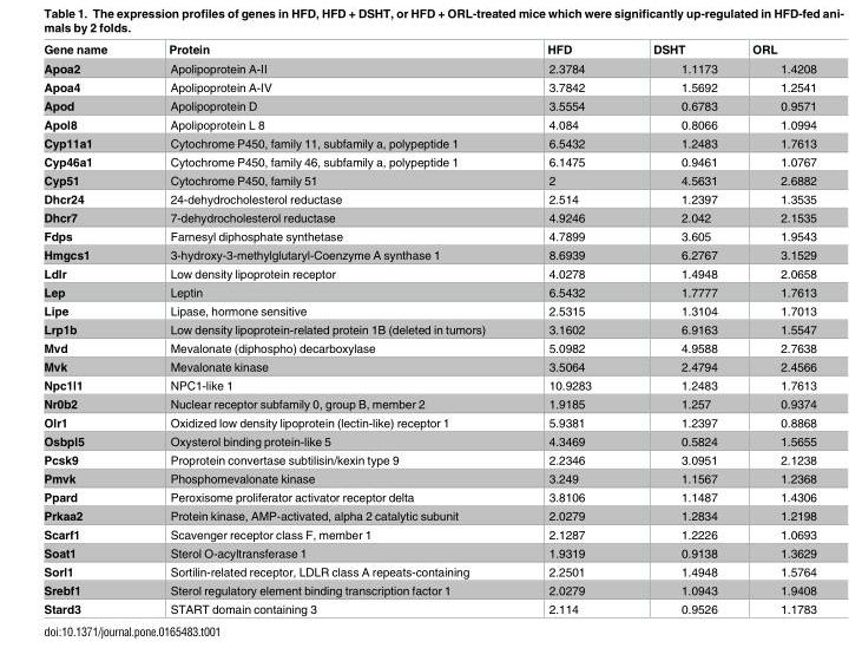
<table><thead><tr><td>Gene name</td><td>Protein</td><td>HFD</td><td>DSHT</td><td>ORL</td></tr></thead><tbody><tr><td>Apoa2</td><td>Apolipoprotein A-II</td><td>2.3784</td><td>1.1173</td><td>1.4208</td></tr><tr><td>Apoa4</td><td>Apolipoprotein A-IV</td><td>3.7842</td><td>1.5692</td><td>1.2541</td></tr><tr><td>Apod</td><td>Apolipoprotein D</td><td>3.5554</td><td>0.6783</td><td>0.9571</td></tr><tr><td>Apol8</td><td>Apolipoprotein L 8</td><td>4.084</td><td>0.8066</td><td>1.0994</td></tr><tr><td>Cyp11a1</td><td>Cytochrome P450, family 11, subfamily a, polypeptide 1</td><td>6.5432</td><td>1.2483</td><td>1.7613</td></tr><tr><td>Cyp46a1</td><td>Cytochrome P450, family 46, subfamily a, polypeptide 1</td><td>6.1475</td><td>0.9461</td><td>1.0767</td></tr><tr><td>Cyp51</td><td>Cytochrome P450, family 51</td><td>2</td><td>4.5631</td><td>2.6882</td></tr><tr><td>Dhcr24</td><td>24-dehydrocholesterol reductase</td><td>2.514</td><td>1.2397</td><td>1.3535</td></tr><tr><td>Dhcr7</td><td>7-dehydrocholesterol reductase</td><td>4.9246</td><td>2.042</td><td>2.1535</td></tr><tr><td>Fdps</td><td>Farnesyl diphosphate synthetase</td><td>4.7899</td><td>3.605</td><td>1.9543</td></tr><tr><td>Hmgcs1</td><td>3-hydroxy-3-methylglutaryl-Coenzyme A synthase 1</td><td>8.6939</td><td>6.2767</td><td>3.1529</td></tr><tr><td>Ldlr</td><td>Low density lipoprotein receptor</td><td>4.0278</td><td>1.4948</td><td>2.0658</td></tr><tr><td>Lep</td><td>Leptin</td><td>6.5432</td><td>1.7777</td><td>1.7613</td></tr><tr><td>Lipe</td><td>Lipase, hormone sensitive</td><td>2.5315</td><td>1.3104</td><td>1.7013</td></tr><tr><td>Lrp1b</td><td>Low density lipoprotein-related protein 1B (deleted in tumors)</td><td>3.1602</td><td>6.9163</td><td>1.5547</td></tr><tr><td>Mvd</td><td>Mevalonate (diphospho) decarboxylase</td><td>5.0982</td><td>4.9588</td><td>2.7638</td></tr><tr><td>Mvk</td><td>Mevalonate kinase</td><td>3.5064</td><td>2.4794</td><td>2.4566</td></tr><tr><td>Npc1l1</td><td>NPC1-like 1</td><td>10.9283</td><td>1.2483</td><td>1.7613</td></tr><tr><td>Nr0b2</td><td>Nuclear receptor subfamily 0, group B, member 2</td><td>1.9185</td><td>1.257</td><td>0.9374</td></tr><tr><td>Olr1</td><td>Oxidized low density lipoprotein (lectin-like) receptor 1</td><td>5.9381</td><td>1.2397</td><td>0.8868</td></tr><tr><td>Osbpl5</td><td>Oxysterol binding protein-like 5</td><td>4.3469</td><td>0.5824</td><td>1.5655</td></tr><tr><td>Pcsk9</td><td>Proprotein convertase subtilisin/kexin type 9</td><td>2.2346</td><td>3.0951</td><td>2.1238</td></tr><tr><td>Pmvk</td><td>Phosphomevalonate kinase</td><td>3.249</td><td>1.1567</td><td>1.2368</td></tr><tr><td>Ppard</td><td>Peroxisome proliferator activator receptor delta</td><td>3.8106</td><td>1.1487</td><td>1.4306</td></tr><tr><td>Prkaa2</td><td>Protein kinase, AMP-activated, alpha 2 catalytic subunit</td><td>2.0279</td><td>1.2834</td><td>1.2198</td></tr><tr><td>Scarf1</td><td>Scavenger receptor class F, member 1</td><td>2.1287</td><td>1.2226</td><td>1.0693</td></tr><tr><td>Soat1</td><td>Sterol O-acyltransferase 1</td><td>1.9319</td><td>0.9138</td><td>1.3629</td></tr><tr><td>Sorl1</td><td>Sortilin-related receptor, LDLR class A repeats-containing</td><td>2.2501</td><td>1.4948</td><td>1.5764</td></tr><tr><td>Srebf1</td><td>Sterol regulatory element binding transcription factor 1</td><td>2.0279</td><td>1.0943</td><td>1.9408</td></tr><tr><td>Stard3</td><td>START domain containing 3</td><td>2.114</td><td>0.9526</td><td>1.1783</td></tr></tbody></table>